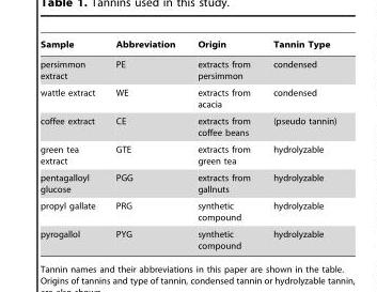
<table><thead><tr><td>Sample</td><td>Abbreviation</td><td>Origin</td><td>Tannin Type</td></tr></thead><tbody><tr><td>persimmon extract</td><td>PE</td><td>extracts from persimmon</td><td>condensed</td></tr><tr><td>wattle extract</td><td>WE</td><td>extracts from acacia</td><td>condensed</td></tr><tr><td>coffee extract</td><td>CE</td><td>extracts from coffee beans</td><td>(pseudo tannin)</td></tr><tr><td>green tea extract</td><td>GTE</td><td>extracts from green tea</td><td>hydrolyzable</td></tr><tr><td>pentagalloyl glucose</td><td>PGG</td><td>extracts from gallnuts</td><td>hydrolyzable</td></tr><tr><td>propyl gallate</td><td>PRG</td><td>synthetic compound</td><td>hydrolyzable</td></tr><tr><td>pyrogallol</td><td>PYG</td><td>synthetic compound</td><td>hydrolyzable</td></tr></tbody></table>